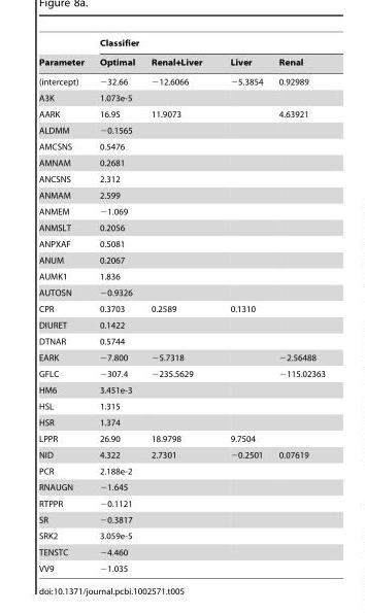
<table><thead><tr><td rowspan="2">Parameter</td><td colspan="4">Classifier</td></tr><tr><td>Optimal</td><td>Renal+Liver</td><td>Liver</td><td>Renal</td></tr></thead><tbody><tr><td>(intercept)</td><td>−32.66</td><td>−12.6066</td><td>−5.3854</td><td>0.92989</td></tr><tr><td>A3K</td><td>1.073e-5</td><td></td><td></td><td></td></tr><tr><td>AARK</td><td>16.95</td><td>11.9073</td><td></td><td>4.63921</td></tr><tr><td>ALDMM</td><td>−0.1565</td><td></td><td></td><td></td></tr><tr><td>AMCSNS</td><td>0.5476</td><td></td><td></td><td></td></tr><tr><td>AMNAM</td><td>0.2681</td><td></td><td></td><td></td></tr><tr><td>ANCSNS</td><td>2.312</td><td></td><td></td><td></td></tr><tr><td>ANMAM</td><td>2.599</td><td></td><td></td><td></td></tr><tr><td>ANMEM</td><td>−1.069</td><td></td><td></td><td></td></tr><tr><td>ANMSLT</td><td>0.2056</td><td></td><td></td><td></td></tr><tr><td>ANPXAF</td><td>0.5081</td><td></td><td></td><td></td></tr><tr><td>ANUM</td><td>0.2067</td><td></td><td></td><td></td></tr><tr><td>AUMK1</td><td>1.836</td><td></td><td></td><td></td></tr><tr><td>AUTOSN</td><td>−0.9326</td><td></td><td></td><td></td></tr><tr><td>CPR</td><td>0.3703</td><td>0.2589</td><td>0.1310</td><td></td></tr><tr><td>DIURET</td><td>0.1422</td><td></td><td></td><td></td></tr><tr><td>DTNAR</td><td>0.5744</td><td></td><td></td><td></td></tr><tr><td>EARK</td><td>−7.800</td><td>−5.7318</td><td></td><td>−2.56488</td></tr><tr><td>GFLC</td><td>−307.4</td><td>−235.5629</td><td></td><td>−115.02363</td></tr><tr><td>HM6</td><td>3.451e-3</td><td></td><td></td><td></td></tr><tr><td>HSL</td><td>1.315</td><td></td><td></td><td></td></tr><tr><td>HSR</td><td>1.374</td><td></td><td></td><td></td></tr><tr><td>LPPR</td><td>26.90</td><td>18.9798</td><td>9.7504</td><td></td></tr><tr><td>NID</td><td>4.322</td><td>2.7301</td><td>−0.2501</td><td>0.07619</td></tr><tr><td>PCR</td><td>2.188e-2</td><td></td><td></td><td></td></tr><tr><td>RNAUGN</td><td>−1.645</td><td></td><td></td><td></td></tr><tr><td>RTPPR</td><td>−0.1121</td><td></td><td></td><td></td></tr><tr><td>SR</td><td>−0.3817</td><td></td><td></td><td></td></tr><tr><td>SRK2</td><td>3.059e-5</td><td></td><td></td><td></td></tr><tr><td>TENSTC</td><td>−4.460</td><td></td><td></td><td></td></tr><tr><td>VV9</td><td>−1.035</td><td></td><td></td><td></td></tr></tbody></table>